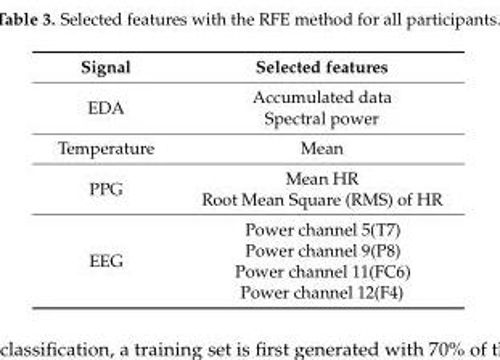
<table><thead><tr><td>Signal</td><td>Selected features</td></tr></thead><tbody><tr><td>EDA</td><td>Accumulated data Spectral power</td></tr><tr><td>Temperature</td><td>Mean</td></tr><tr><td>PPG</td><td>Mean HR Root Mean Square (RMS) of HR</td></tr><tr><td>EEG</td><td>Power channel 5(T7) Power channel 9(P8) Power channel 11(FC6) Power channel 12(F4)</td></tr></tbody></table>